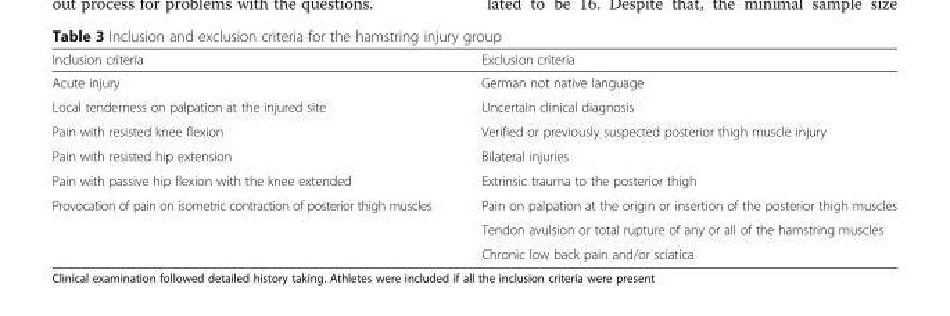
<table><thead><tr><td>Inclusion criteria</td><td>Exclusion criteria</td></tr></thead><tbody><tr><td>Acute injury</td><td>German not native language</td></tr><tr><td>Local tenderness on palpation at the injured site</td><td>Uncertain clinical diagnosis</td></tr><tr><td>Pain with resisted knee flexion</td><td>Verified or previously suspected posterior thigh muscle injury</td></tr><tr><td>Pain with resisted hip extension</td><td>Bilateral injuries</td></tr><tr><td>Pain with passive hip flexion with the knee extended</td><td>Extrinsic trauma to the posterior thigh</td></tr><tr><td rowspan="3">Provocation of pain on isometric contraction of posterior thigh muscles</td><td>Pain on palpation at the origin or insertion of the posterior thigh muscles</td></tr><tr><td>Tendon avulsion or total rupture of any or all of the hamstring muscles</td></tr><tr><td>Chronic low back pain and/or sciatica</td></tr></tbody></table>